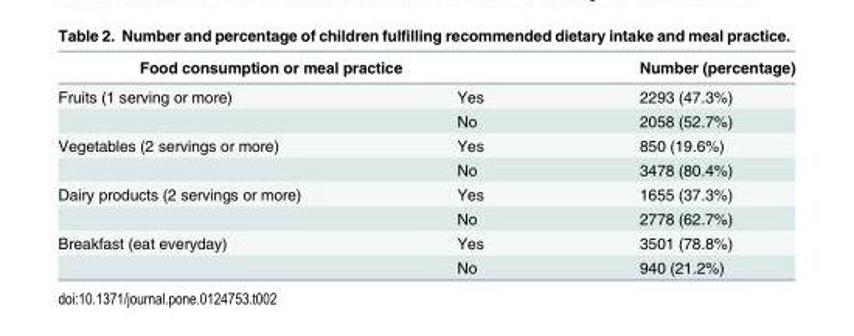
<table><thead><tr><td colspan="2">Food consumption or meal practice</td><td rowspan="2">Number (percentage) 2293 (47.3%)</td></tr><tr><td>Fruits (1 serving or more)</td><td>Yes</td></tr></thead><tbody><tr><td></td><td>No</td><td>2058 (52.7%)</td></tr><tr><td rowspan="2">Vegetables (2 servings or more)</td><td>Yes</td><td>850 (19.6%)</td></tr><tr><td>No</td><td>3478 (80.4%)</td></tr><tr><td rowspan="2">Dairy products (2 servings or more)</td><td>Yes</td><td>1655 (37.3%)</td></tr><tr><td>No</td><td>2778 (62.7%)</td></tr><tr><td rowspan="2">Breakfast (eat everyday)</td><td>Yes</td><td>3501 (78.8%)</td></tr><tr><td>No</td><td>940 (21.2%)</td></tr></tbody></table>